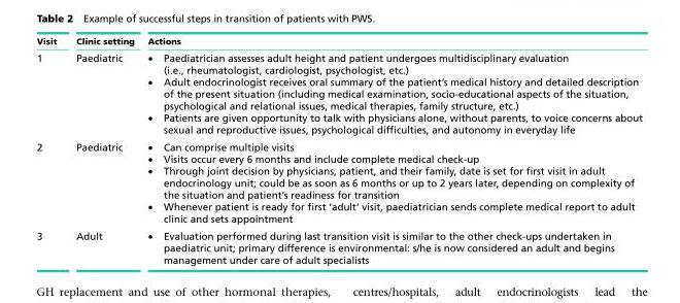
<table><thead><tr><td>Visit</td><td>Clinic setting</td><td>Actions</td></tr></thead><tbody><tr><td>1</td><td>Paediatric</td><td>• Paediatrician assesses adult height and patient undergoes multidisciplinary evaluation (i.e., rheumatologist, cardiologist, psychologist, etc.) • Adult endocrinologist receives oral summary of the patient’s medical history and detailed description of the present situation (including medical examination, socio-educational aspects of the situation, psychological and relational issues, medical therapies, family structure, etc.) • Patients are given opportunity to talk with physicians alone, without parents, to voice concerns about sexual and reproductive issues, psychological difficulties, and autonomy in everyday life</td></tr><tr><td>2</td><td>Paediatric</td><td>• Can comprise multiple visits • Visits occur every 6 months and include complete medical check-up • Through joint decision by physicians, patient, and their family, date is set for first visit in adult endocrinology unit; could be as soon as 6 months or up to 2 years later, depending on complexity of the situation and patient’s readiness for transition • Whenever patient is ready for first ‘adult’ visit, paediatrician sends complete medical report to adult clinic and sets appointment</td></tr><tr><td>3</td><td>Adult</td><td>• Evaluation performed during last transition visit is similar to the other check-ups undertaken in paediatric unit; primary difference is environmental: s/he is now considered an adult and begins management under care of adult specialists</td></tr></tbody></table>